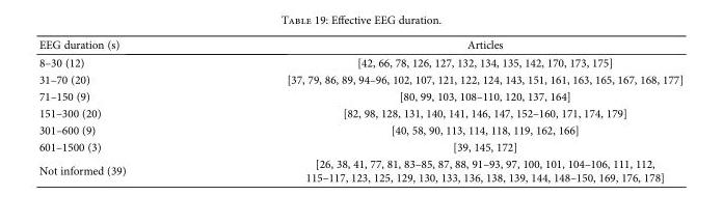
<table><thead><tr><td>EEG duration (s)</td><td>Articles</td></tr></thead><tbody><tr><td>8–30 (12)</td><td>[42, 66, 78, 126, 127, 132, 134, 135, 142, 170, 173, 175]</td></tr><tr><td>31–70 (20)</td><td>[37, 79, 86, 89, 94–96, 102, 107, 121, 122, 124, 143, 151, 161, 163, 165, 167, 168, 177]</td></tr><tr><td>71–150 (9)</td><td>[80, 99, 103, 108–110, 120, 137, 164]</td></tr><tr><td>151–300 (20)</td><td>[82, 98, 128, 131, 140, 141, 146, 147, 152–160, 171, 174, 179]</td></tr><tr><td>301–600 (9)</td><td>[40, 58, 90, 113, 114, 118, 119, 162, 166]</td></tr><tr><td>601–1500 (3)</td><td>[39, 145, 172]</td></tr><tr><td>Not informed (39)</td><td>[26, 38, 41, 77, 81, 83–85, 87, 88, 91–93, 97, 100, 101, 104–106, 111, 112, 115–117, 123, 125, 129, 130, 133, 136, 138, 139, 144, 148–150, 169, 176, 178]</td></tr></tbody></table>